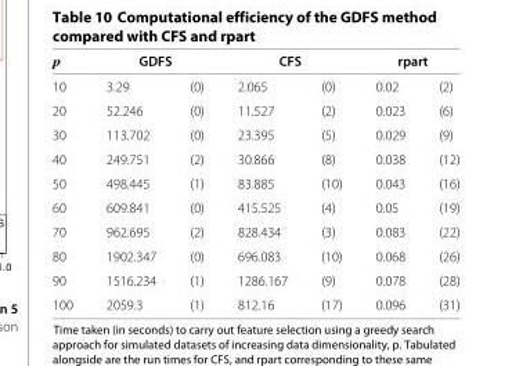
<table><thead><tr><td rowspan="2">p 10</td><td colspan="2">GDFS</td><td colspan="2">CFS</td><td colspan="2">rpart</td></tr><tr><td>3.29</td><td>(0)</td><td>2.065</td><td>(0)</td><td>0.02</td><td>(2)</td></tr></thead><tbody><tr><td>20</td><td>52.246</td><td>(0)</td><td>11.527</td><td>(2)</td><td>0.023</td><td>(6)</td></tr><tr><td>30</td><td>113.702</td><td>(0)</td><td>23.395</td><td>(5)</td><td>0.029</td><td>(9)</td></tr><tr><td>40</td><td>249.751</td><td>(2)</td><td>30.866</td><td>(8)</td><td>0.038</td><td>(12)</td></tr><tr><td>50</td><td>498.445</td><td>(1)</td><td>83.885</td><td>(10)</td><td>0.043</td><td>(16)</td></tr><tr><td>60</td><td>609.841</td><td>(0)</td><td>415.525</td><td>(4)</td><td>0.05</td><td>(19)</td></tr><tr><td>70</td><td>962.695</td><td>(2)</td><td>828.434</td><td>(3)</td><td>0.083</td><td>(22)</td></tr><tr><td>80</td><td>1902.347</td><td>(0)</td><td>696.083</td><td>(10)</td><td>0.068</td><td>(26)</td></tr><tr><td>90</td><td>1516.234</td><td>(1)</td><td>1286.167</td><td>(9)</td><td>0.078</td><td>(28)</td></tr><tr><td>100</td><td>2059.3</td><td>(1)</td><td>812.16</td><td>(17)</td><td>0.096</td><td>(31)</td></tr></tbody></table>